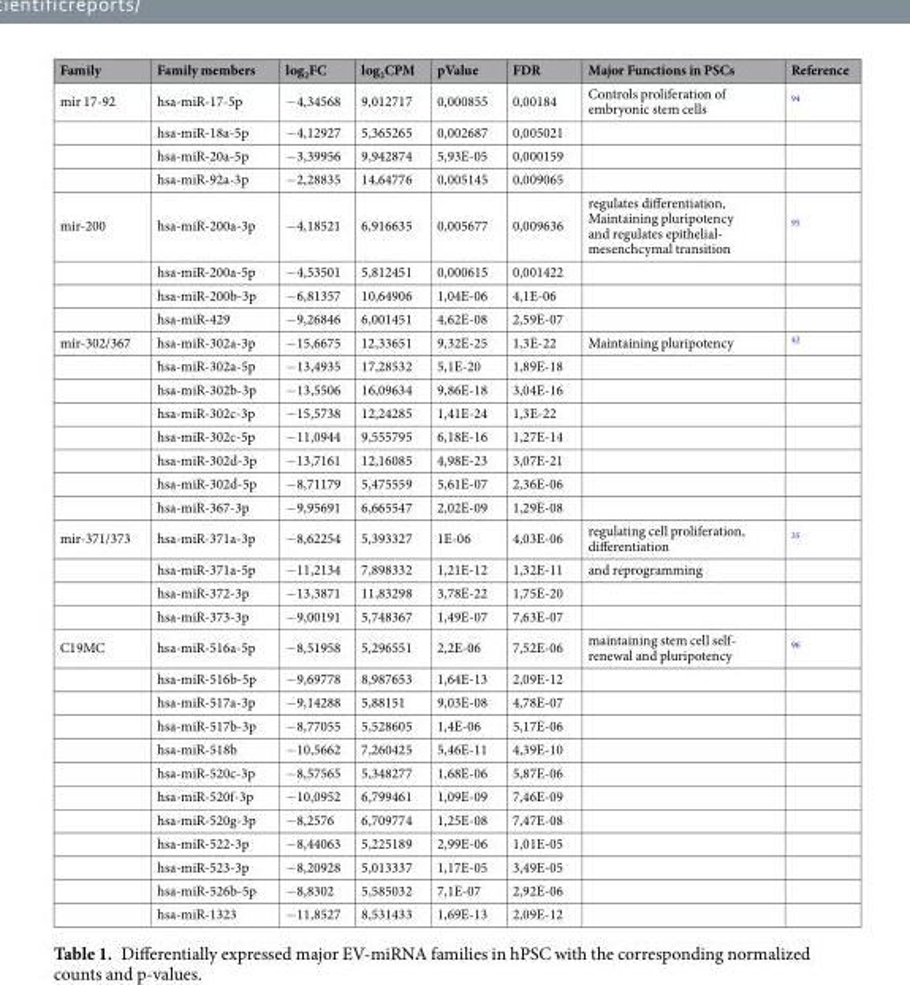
<table><thead><tr><td>Family</td><td>Family members</td><td>log<sub>2</sub>FC</td><td>log<sub>2</sub>CPM</td><td>pValue</td><td>FDR</td><td>Major Functions in PSCs</td><td>Reference</td></tr></thead><tbody><tr><td rowspan="4">mir 17-92</td><td>hsa-miR-17-5p</td><td>−4,34568</td><td>9,012717</td><td>0,000855</td><td>0,00184</td><td>Controls proliferation of embryonic stem cells</td><td><sup>94</sup></td></tr><tr><td>hsa-miR-18a-5p</td><td>−4,12927</td><td>5,365265</td><td>0,002687</td><td>0,005021</td><td></td><td></td></tr><tr><td>hsa-miR-20a-5p</td><td>−3,39956</td><td>9,942874</td><td>5,93E-05</td><td>0,000159</td><td></td><td></td></tr><tr><td>hsa-miR-92a-3p</td><td>−2,28835</td><td>14,64776</td><td>0,005145</td><td>0,009065</td><td></td><td></td></tr><tr><td rowspan="4">mir-200</td><td>hsa-miR-200a-3p</td><td>−4,18521</td><td>6,916635</td><td>0,005677</td><td>0,009636</td><td>regulates differentiation, Maintaining pluripotency and regulates epithelial- mesenchcymal transition</td><td><sup>95</sup></td></tr><tr><td>hsa-miR-200a-5p</td><td>−4,53501</td><td>5,812451</td><td>0,000615</td><td>0,001422</td><td></td><td></td></tr><tr><td>hsa-miR-200b-3p</td><td>−6,81357</td><td>10,64906</td><td>1,04E-06</td><td>4,1E-06</td><td></td><td></td></tr><tr><td>hsa-miR-429</td><td>−9,26846</td><td>6,001451</td><td>4,62E-08</td><td>2,59E-07</td><td></td><td></td></tr><tr><td rowspan="8">mir-302/367</td><td>hsa-miR-302a-3p</td><td>−15,6675</td><td>12,33651</td><td>9,32E-25</td><td>1,3E-22</td><td>Maintaining pluripotency</td><td><sup>42</sup></td></tr><tr><td>hsa-miR-302a-5p</td><td>−13,4935</td><td>17,28532</td><td>5,1E-20</td><td>1,89E-18</td><td></td><td></td></tr><tr><td>hsa-miR-302b-3p</td><td>−13,5506</td><td>16,09634</td><td>9,86E-18</td><td>3,04E-16</td><td></td><td></td></tr><tr><td>hsa-miR-302c-3p</td><td>−15,5738</td><td>12,24285</td><td>1,41E-24</td><td>1,3E-22</td><td></td><td></td></tr><tr><td>hsa-miR-302c-5p</td><td>−11,0944</td><td>9,555795</td><td>6,18E-16</td><td>1,27E-14</td><td></td><td></td></tr><tr><td>hsa-miR-302d-3p</td><td>−13,7161</td><td>12,16085</td><td>4,98E-23</td><td>3,07E-21</td><td></td><td></td></tr><tr><td>hsa-miR-302d-5p</td><td>−8,71179</td><td>5,475559</td><td>5,61E-07</td><td>2,36E-06</td><td></td><td></td></tr><tr><td>hsa-miR-367-3p</td><td>−9,95691</td><td>6,665547</td><td>2,02E-09</td><td>1,29E-08</td><td></td><td></td></tr><tr><td rowspan="4">mir-371/373</td><td>hsa-miR-371a-3p</td><td>−8,62254</td><td>5,393327</td><td>1E-06</td><td>4,03E-06</td><td>regulating cell proliferation, differentiation</td><td><sup>35</sup></td></tr><tr><td>hsa-miR-371a-5p</td><td>−11,2134</td><td>7,898332</td><td>1,21E-12</td><td>1,32E-11</td><td>and reprogramming</td><td></td></tr><tr><td>hsa-miR-372-3p</td><td>−13,3871</td><td>11,83298</td><td>3,78E-22</td><td>1,75E-20</td><td></td><td></td></tr><tr><td>hsa-miR-373-3p</td><td>−9,00191</td><td>5,748367</td><td>1,49E-07</td><td>7,63E-07</td><td></td><td></td></tr><tr><td rowspan="12">C19MC</td><td>hsa-miR-516a-5p</td><td>−8,51958</td><td>5,296551</td><td>2,2E-06</td><td>7,52E-06</td><td>maintaining stem cell self- renewal and pluripotency</td><td><sup>96</sup></td></tr><tr><td>hsa-miR-516b-5p</td><td>−9,69778</td><td>8,987653</td><td>1,64E-13</td><td>2,09E-12</td><td></td><td></td></tr><tr><td>hsa-miR-517a-3p</td><td>−9,14288</td><td>5,88151</td><td>9,03E-08</td><td>4,78E-07</td><td></td><td></td></tr><tr><td>hsa-miR-517b-3p</td><td>−8,77055</td><td>5,528605</td><td>1,4E-06</td><td>5,17E-06</td><td></td><td></td></tr><tr><td>hsa-miR-518b</td><td>−10,5662</td><td>7,260425</td><td>5,46E-11</td><td>4,39E-10</td><td></td><td></td></tr><tr><td>hsa-miR-520c-3p</td><td>−8,57565</td><td>5,348277</td><td>1,68E-06</td><td>5,87E-06</td><td></td><td></td></tr><tr><td>hsa-miR-520f-3p</td><td>−10,0952</td><td>6,799461</td><td>1,09E-09</td><td>7,46E-09</td><td></td><td></td></tr><tr><td>hsa-miR-520g-3p</td><td>−8,2576</td><td>6,709774</td><td>1,25E-08</td><td>7,47E-08</td><td></td><td></td></tr><tr><td>hsa-miR-522-3p</td><td>−8,44063</td><td>5,225189</td><td>2,99E-06</td><td>1,01E-05</td><td></td><td></td></tr><tr><td>hsa-miR-523-3p</td><td>−8,20928</td><td>5,013337</td><td>1,17E-05</td><td>3,49E-05</td><td></td><td></td></tr><tr><td>hsa-miR-526b-5p</td><td>−8,8302</td><td>5,585032</td><td>7,1E-07</td><td>2,92E-06</td><td></td><td></td></tr><tr><td>hsa-miR-1323</td><td>−11,8527</td><td>8,531433</td><td>1,69E-13</td><td>2,09E-12</td><td></td><td></td></tr></tbody></table>